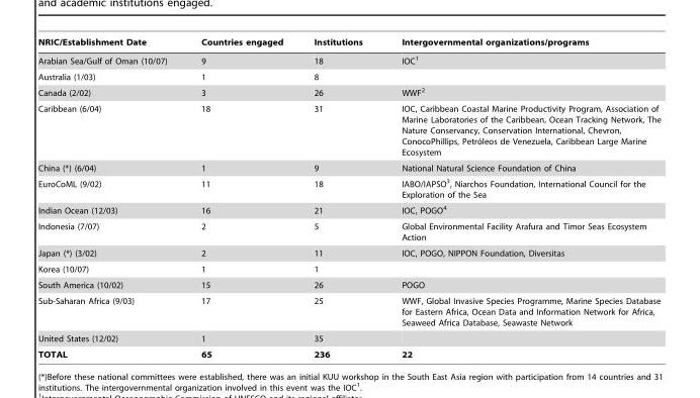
<table><thead><tr><td>NRIC/Establishment Date</td><td>Countries engaged</td><td>Institutions</td><td>Intergovernmental organizations/programs</td></tr></thead><tbody><tr><td>Arabian Sea/Gulf of Oman (10/07)</td><td>9</td><td>18</td><td>IOC<sup>1</sup></td></tr><tr><td>Australia (1/03)</td><td>1</td><td>8</td><td></td></tr><tr><td>Canada (2/02)</td><td>3</td><td>26</td><td>WWF<sup>2</sup></td></tr><tr><td>Caribbean (6/04)</td><td>18</td><td>31</td><td>IOC, Caribbean Coastal Marine Productivity Program, Association of Marine Laboratories of the Caribbean, Ocean Tracking Network, The Nature Conservancy, Conservation International, Chevron, ConocoPhillips, Petro´leos de Venezuela, Caribbean Large Marine Ecosystem</td></tr><tr><td>China (*) (6/04)</td><td>1</td><td>9</td><td>National Natural Science Foundation of China</td></tr><tr><td>EuroCoML (9/02)</td><td>11</td><td>18</td><td>IABO/IAPSO<sup>3</sup>, Niarchos Foundation, International Council for the Exploration of the Sea</td></tr><tr><td>Indian Ocean (12/03)</td><td>16</td><td>21</td><td>IOC, POGO<sup>4</sup></td></tr><tr><td>Indonesia (7/07)</td><td>2</td><td>5</td><td>Global Environmental Facility Arafura and Timor Seas Ecosystem Action</td></tr><tr><td>Japan (*) (3/02)</td><td>2</td><td>11</td><td>IOC, POGO, NIPPON Foundation, Diversitas</td></tr><tr><td>Korea (10/07)</td><td>1</td><td>1</td><td></td></tr><tr><td>South America (10/02)</td><td>15</td><td>26</td><td>POGO</td></tr><tr><td>Sub-Saharan Africa (9/03)</td><td>17</td><td>25</td><td>WWF, Global Invasive Species Programme, Marine Species Database for Eastern Africa, Ocean Data and Information Network for Africa, Seaweed Africa Database, Seawaste Network</td></tr><tr><td>United States (12/02)</td><td>1</td><td>35</td><td></td></tr><tr><td>TOTAL</td><td>65</td><td>236</td><td>22</td></tr></tbody></table>